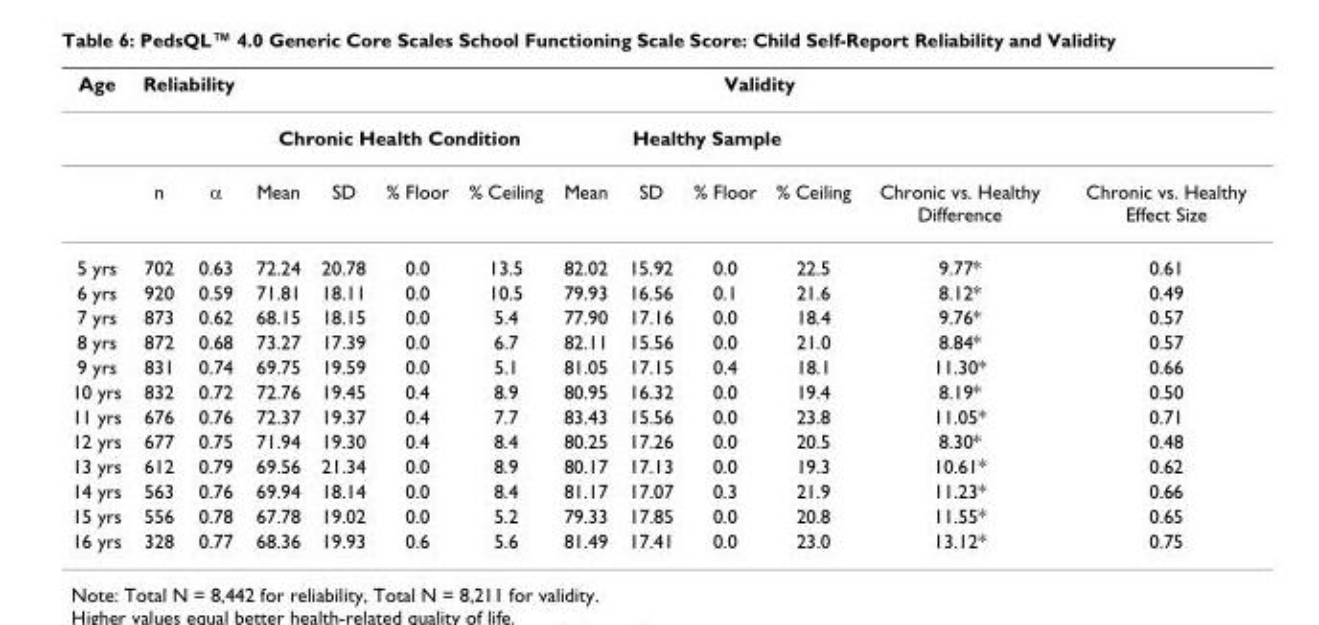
<table><thead><tr><td rowspan="3">Age</td><td colspan="2">Reliability</td><td colspan="10">Validity</td></tr><tr><td rowspan="2">n</td><td rowspan="2">α</td><td colspan="4">Chronic Health Condition</td><td colspan="4">Healthy Sample</td><td rowspan="2">Chronic vs. Healthy Difference</td><td rowspan="2">Chronic vs. Healthy Effect Size</td></tr><tr><td>Mean</td><td>SD</td><td>% Floor</td><td>% Ceiling</td><td>Mean</td><td>SD</td><td>% Floor</td><td>% Ceiling</td></tr></thead><tbody><tr><td>5 yrs</td><td>702</td><td>0.63</td><td>72.24</td><td>20.78</td><td>0.0</td><td>13.5</td><td>82.02</td><td>15.92</td><td>0.0</td><td>22.5</td><td>9.77*</td><td>0.61</td></tr><tr><td>6 yrs</td><td>920</td><td>0.59</td><td>71.81</td><td>18.11</td><td>0.0</td><td>10.5</td><td>79.93</td><td>16.56</td><td>0.1</td><td>21.6</td><td>8.12*</td><td>0.49</td></tr><tr><td>7 yrs</td><td>873</td><td>0.62</td><td>68.15</td><td>18.15</td><td>0.0</td><td>5.4</td><td>77.90</td><td>17.16</td><td>0.0</td><td>18.4</td><td>9.76*</td><td>0.57</td></tr><tr><td>8 yrs</td><td>872</td><td>0.68</td><td>73.27</td><td>17.39</td><td>0.0</td><td>6.7</td><td>82.11</td><td>15.56</td><td>0.0</td><td>21.0</td><td>8.84*</td><td>0.57</td></tr><tr><td>9 yrs</td><td>831</td><td>0.74</td><td>69.75</td><td>19.59</td><td>0.0</td><td>5.1</td><td>81.05</td><td>17.15</td><td>0.4</td><td>18.1</td><td>11.30*</td><td>0.66</td></tr><tr><td>10 yrs</td><td>832</td><td>0.72</td><td>72.76</td><td>19.45</td><td>0.4</td><td>8.9</td><td>80.95</td><td>16.32</td><td>0.0</td><td>19.4</td><td>8.19*</td><td>0.50</td></tr><tr><td>11 yrs</td><td>676</td><td>0.76</td><td>72.37</td><td>19.37</td><td>0.4</td><td>7.7</td><td>83.43</td><td>15.56</td><td>0.0</td><td>23.8</td><td>11.05*</td><td>0.71</td></tr><tr><td>12 yrs</td><td>677</td><td>0.75</td><td>71.94</td><td>19.30</td><td>0.4</td><td>8.4</td><td>80.25</td><td>17.26</td><td>0.0</td><td>20.5</td><td>8.30*</td><td>0.48</td></tr><tr><td>13 yrs</td><td>612</td><td>0.79</td><td>69.56</td><td>21.34</td><td>0.0</td><td>8.9</td><td>80.17</td><td>17.13</td><td>0.0</td><td>19.3</td><td>10.61*</td><td>0.62</td></tr><tr><td>14 yrs</td><td>563</td><td>0.76</td><td>69.94</td><td>18.14</td><td>0.0</td><td>8.4</td><td>81.17</td><td>17.07</td><td>0.3</td><td>21.9</td><td>11.23*</td><td>0.66</td></tr><tr><td>15 yrs</td><td>556</td><td>0.78</td><td>67.78</td><td>19.02</td><td>0.0</td><td>5.2</td><td>79.33</td><td>17.85</td><td>0.0</td><td>20.8</td><td>11.55*</td><td>0.65</td></tr><tr><td>16 yrs</td><td>328</td><td>0.77</td><td>68.36</td><td>19.93</td><td>0.6</td><td>5.6</td><td>81.49</td><td>17.41</td><td>0.0</td><td>23.0</td><td>13.12*</td><td>0.75</td></tr></tbody></table>